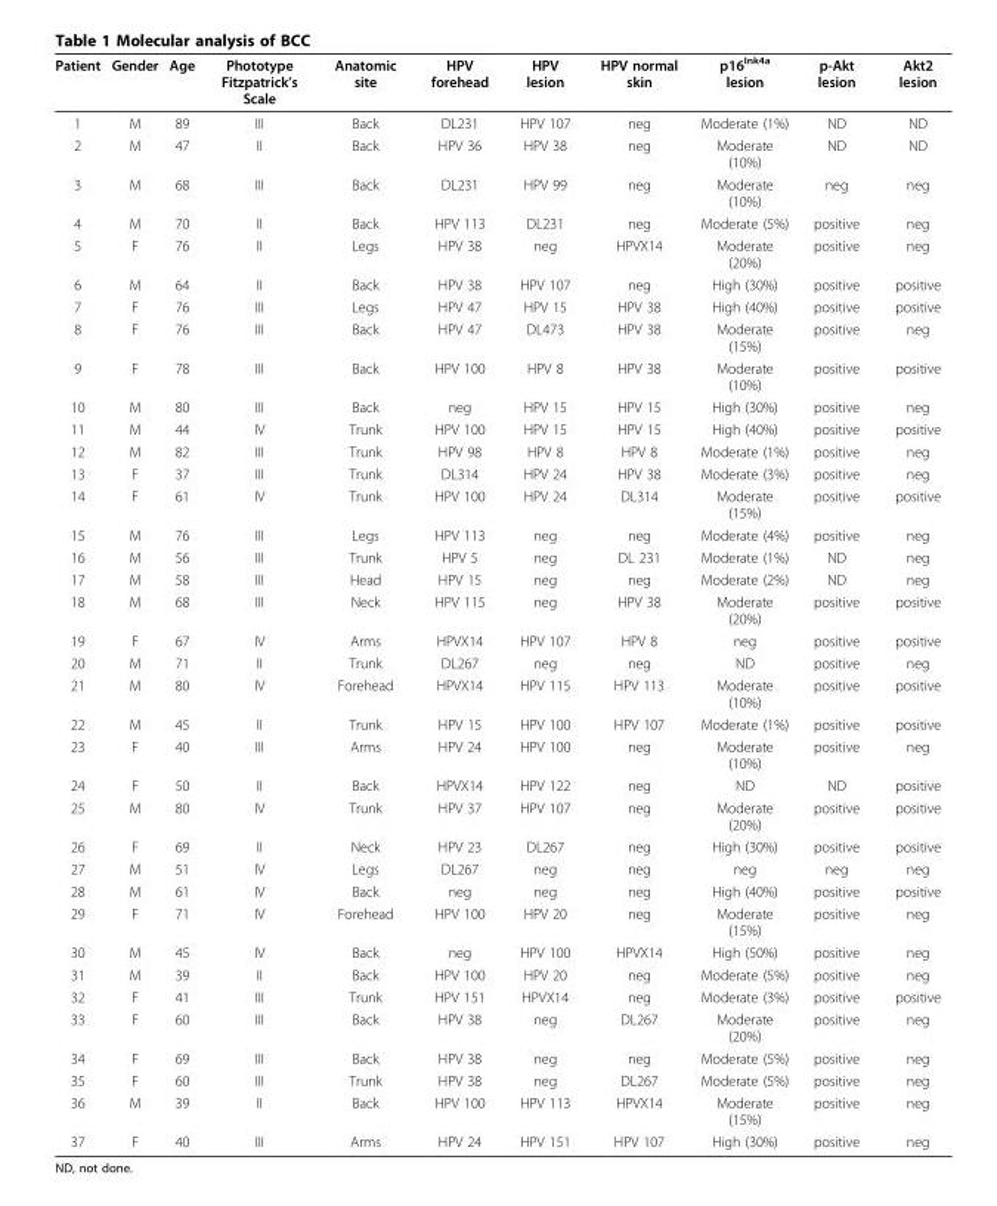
<table><thead><tr><td>Patient</td><td>Gender</td><td>Age</td><td>Phototype Fitzpatrick’s Scale</td><td>Anatomic site</td><td>HPV forehead</td><td>HPV lesion</td><td>HPV normal skin</td><td>p16<sup>Ink4a</sup> lesion</td><td>p-Akt lesion</td><td>Akt2 lesion</td></tr></thead><tbody><tr><td>1</td><td>M</td><td>89</td><td>III</td><td>Back</td><td>DL231</td><td>HPV 107</td><td>neg</td><td>Moderate (1%)</td><td>ND</td><td>ND</td></tr><tr><td>2</td><td>M</td><td>47</td><td>II</td><td>Back</td><td>HPV 36</td><td>HPV 38</td><td>neg</td><td>Moderate (10%)</td><td>ND</td><td>ND</td></tr><tr><td>3</td><td>M</td><td>68</td><td>III</td><td>Back</td><td>DL231</td><td>HPV 99</td><td>neg</td><td>Moderate (10%)</td><td>neg</td><td>neg</td></tr><tr><td>4</td><td>M</td><td>70</td><td>II</td><td>Back</td><td>HPV 113</td><td>DL231</td><td>neg</td><td>Moderate (5%)</td><td>positive</td><td>neg</td></tr><tr><td>5</td><td>F</td><td>76</td><td>II</td><td>Legs</td><td>HPV 38</td><td>neg</td><td>HPVX14</td><td>Moderate (20%)</td><td>positive</td><td>neg</td></tr><tr><td>6</td><td>M</td><td>64</td><td>II</td><td>Back</td><td>HPV 38</td><td>HPV 107</td><td>neg</td><td>High (30%)</td><td>positive</td><td>positive</td></tr><tr><td>7</td><td>F</td><td>76</td><td>III</td><td>Legs</td><td>HPV 47</td><td>HPV 15</td><td>HPV 38</td><td>High (40%)</td><td>positive</td><td>positive</td></tr><tr><td>8</td><td>F</td><td>76</td><td>III</td><td>Back</td><td>HPV 47</td><td>DL473</td><td>HPV 38</td><td>Moderate (15%)</td><td>positive</td><td>neg</td></tr><tr><td>9</td><td>F</td><td>78</td><td>III</td><td>Back</td><td>HPV 100</td><td>HPV 8</td><td>HPV 38</td><td>Moderate (10%)</td><td>positive</td><td>positive</td></tr><tr><td>10</td><td>M</td><td>80</td><td>III</td><td>Back</td><td>neg</td><td>HPV 15</td><td>HPV 15</td><td>High (30%)</td><td>positive</td><td>neg</td></tr><tr><td>11</td><td>M</td><td>44</td><td>IV</td><td>Trunk</td><td>HPV 100</td><td>HPV 15</td><td>HPV 15</td><td>High (40%)</td><td>positive</td><td>positive</td></tr><tr><td>12</td><td>M</td><td>82</td><td>III</td><td>Trunk</td><td>HPV 98</td><td>HPV 8</td><td>HPV 8</td><td>Moderate (1%)</td><td>positive</td><td>neg</td></tr><tr><td>13</td><td>F</td><td>37</td><td>III</td><td>Trunk</td><td>DL314</td><td>HPV 24</td><td>HPV 38</td><td>Moderate (3%)</td><td>positive</td><td>neg</td></tr><tr><td>14</td><td>F</td><td>61</td><td>IV</td><td>Trunk</td><td>HPV 100</td><td>HPV 24</td><td>DL314</td><td>Moderate (15%)</td><td>positive</td><td>positive</td></tr><tr><td>15</td><td>M</td><td>76</td><td>III</td><td>Legs</td><td>HPV 113</td><td>neg</td><td>neg</td><td>Moderate (4%)</td><td>positive</td><td>neg</td></tr><tr><td>16</td><td>M</td><td>56</td><td>III</td><td>Trunk</td><td>HPV 5</td><td>neg</td><td>DL 231</td><td>Moderate (1%)</td><td>ND</td><td>neg</td></tr><tr><td>17</td><td>M</td><td>58</td><td>III</td><td>Head</td><td>HPV 15</td><td>neg</td><td>neg</td><td>Moderate (2%)</td><td>ND</td><td>neg</td></tr><tr><td>18</td><td>M</td><td>68</td><td>III</td><td>Neck</td><td>HPV 115</td><td>neg</td><td>HPV 38</td><td>Moderate (20%)</td><td>positive</td><td>positive</td></tr><tr><td>19</td><td>F</td><td>67</td><td>IV</td><td>Arms</td><td>HPVX14</td><td>HPV 107</td><td>HPV 8</td><td>neg</td><td>positive</td><td>positive</td></tr><tr><td>20</td><td>M</td><td>71</td><td>II</td><td>Trunk</td><td>DL267</td><td>neg</td><td>neg</td><td>ND</td><td>positive</td><td>neg</td></tr><tr><td>21</td><td>M</td><td>80</td><td>IV</td><td>Forehead</td><td>HPVX14</td><td>HPV 115</td><td>HPV 113</td><td>Moderate (10%)</td><td>positive</td><td>positive</td></tr><tr><td>22</td><td>M</td><td>45</td><td>II</td><td>Trunk</td><td>HPV 15</td><td>HPV 100</td><td>HPV 107</td><td>Moderate (1%)</td><td>positive</td><td>positive</td></tr><tr><td>23</td><td>F</td><td>40</td><td>III</td><td>Arms</td><td>HPV 24</td><td>HPV 100</td><td>neg</td><td>Moderate (10%)</td><td>positive</td><td>neg</td></tr><tr><td>24</td><td>F</td><td>50</td><td>II</td><td>Back</td><td>HPVX14</td><td>HPV 122</td><td>neg</td><td>ND</td><td>ND</td><td>positive</td></tr><tr><td>25</td><td>M</td><td>80</td><td>IV</td><td>Trunk</td><td>HPV 37</td><td>HPV 107</td><td>neg</td><td>Moderate (20%)</td><td>positive</td><td>positive</td></tr><tr><td>26</td><td>F</td><td>69</td><td>II</td><td>Neck</td><td>HPV 23</td><td>DL267</td><td>neg</td><td>High (30%)</td><td>positive</td><td>positive</td></tr><tr><td>27</td><td>M</td><td>51</td><td>IV</td><td>Legs</td><td>DL267</td><td>neg</td><td>neg</td><td>neg</td><td>neg</td><td>neg</td></tr><tr><td>28</td><td>M</td><td>61</td><td>IV</td><td>Back</td><td>neg</td><td>neg</td><td>neg</td><td>High (40%)</td><td>positive</td><td>positive</td></tr><tr><td>29</td><td>F</td><td>71</td><td>IV</td><td>Forehead</td><td>HPV 100</td><td>HPV 20</td><td>neg</td><td>Moderate (15%)</td><td>positive</td><td>neg</td></tr><tr><td>30</td><td>M</td><td>45</td><td>IV</td><td>Back</td><td>neg</td><td>HPV 100</td><td>HPVX14</td><td>High (50%)</td><td>positive</td><td>neg</td></tr><tr><td>31</td><td>M</td><td>39</td><td>II</td><td>Back</td><td>HPV 100</td><td>HPV 20</td><td>neg</td><td>Moderate (5%)</td><td>positive</td><td>neg</td></tr><tr><td>32</td><td>F</td><td>41</td><td>III</td><td>Trunk</td><td>HPV 151</td><td>HPVX14</td><td>neg</td><td>Moderate (3%)</td><td>positive</td><td>positive</td></tr><tr><td>33</td><td>F</td><td>60</td><td>III</td><td>Back</td><td>HPV 38</td><td>neg</td><td>DL267</td><td>Moderate (20%)</td><td>positive</td><td>neg</td></tr><tr><td>34</td><td>F</td><td>69</td><td>III</td><td>Back</td><td>HPV 38</td><td>neg</td><td>neg</td><td>Moderate (5%)</td><td>positive</td><td>neg</td></tr><tr><td>35</td><td>F</td><td>60</td><td>III</td><td>Trunk</td><td>HPV 38</td><td>neg</td><td>DL267</td><td>Moderate (5%)</td><td>positive</td><td>neg</td></tr><tr><td>36</td><td>M</td><td>39</td><td>II</td><td>Back</td><td>HPV 100</td><td>HPV 113</td><td>HPVX14</td><td>Moderate (15%)</td><td>positive</td><td>neg</td></tr><tr><td>37</td><td>F</td><td>40</td><td>III</td><td>Arms</td><td>HPV 24</td><td>HPV 151</td><td>HPV 107</td><td>High (30%)</td><td>positive</td><td>neg</td></tr></tbody></table>